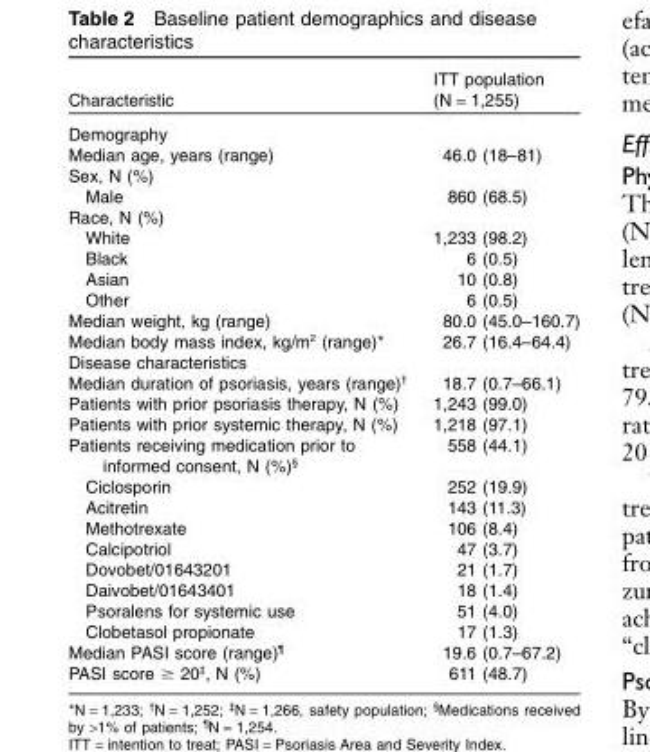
<table><thead><tr><td>Characteristic</td><td>ITT population (N = 1,255)</td></tr></thead><tbody><tr><td colspan="2">Demography</td></tr><tr><td>Median age, years (range)</td><td>46.0 (18–81)</td></tr><tr><td colspan="2">Sex, N (%)</td></tr><tr><td>Male</td><td>860 (68.5)</td></tr><tr><td colspan="2">Race, N (%)</td></tr><tr><td>White</td><td>1,233 (98.2)</td></tr><tr><td>Black</td><td>6 (0.5)</td></tr><tr><td>Asian</td><td>10 (0.8)</td></tr><tr><td>Other</td><td>6 (0.5)</td></tr><tr><td>Median weight, kg (range)</td><td>80.0 (45.0–160.7)</td></tr><tr><td>Median body mass index, kg/m<sup>2</sup> (range)*</td><td>26.7 (16.4–64.4)</td></tr><tr><td colspan="2">Disease characteristics</td></tr><tr><td>Median duration of psoriasis, years (range)†</td><td>18.7 (0.7–66.1)</td></tr><tr><td>Patients with prior psoriasis therapy, N (%)</td><td>1,243 (99.0)</td></tr><tr><td>Patients with prior systemic therapy, N (%)</td><td>1,218 (97.1)</td></tr><tr><td>Patients receiving medication prior to informed consent, N (%)§</td><td>558 (44.1)</td></tr><tr><td>Ciclosporin</td><td>252 (19.9)</td></tr><tr><td>Acitretin</td><td>143 (11.3)</td></tr><tr><td>Methotrexate</td><td>106 (8.4)</td></tr><tr><td>Calcipotriol</td><td>47 (3.7)</td></tr><tr><td>Dovobet/01643201</td><td>21 (1.7)</td></tr><tr><td>Daivobet/01643401</td><td>18 (1.4)</td></tr><tr><td>Psoralens for systemic use</td><td>51 (4.0)</td></tr><tr><td>Clobetasol propionate</td><td>17 (1.3)</td></tr><tr><td>Median PASI score (range)¶</td><td>19.6 (0.7–67.2)</td></tr><tr><td>PASI score ≥ 20‡, N (%)</td><td>611 (48.7)</td></tr></tbody></table>